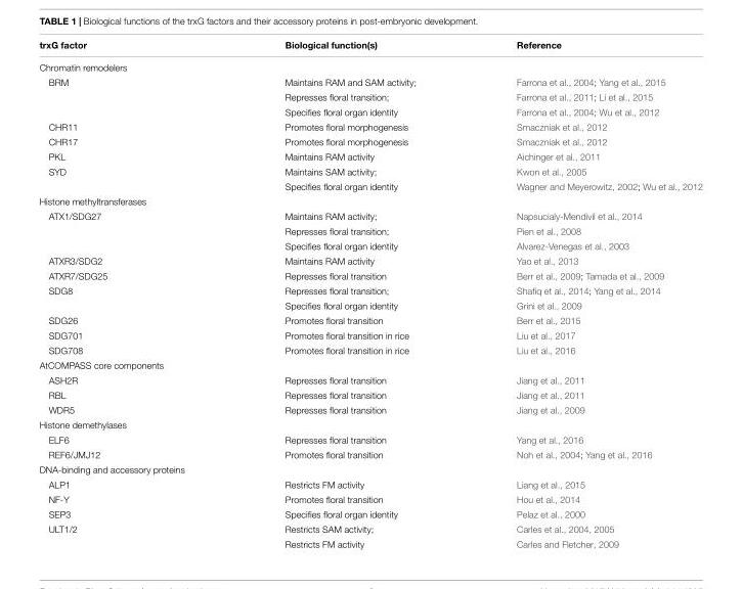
<table><thead><tr><td>trxG factor</td><td>Biological function(s)</td><td>Reference</td></tr></thead><tbody><tr><td colspan="3">Chromatin remodelers</td></tr><tr><td rowspan="3">BRM</td><td>Maintains RAM and SAM activity;</td><td>Farrona et al., 2004; Yang et al., 2015</td></tr><tr><td>Represses floral transition;</td><td>Farrona et al., 2011; Li et al., 2015</td></tr><tr><td>Specifies floral organ identity</td><td>Farrona et al., 2004; Wu et al., 2012</td></tr><tr><td>CHR11</td><td>Promotes floral morphogenesis</td><td>Smaczniak et al., 2012</td></tr><tr><td>CHR17</td><td>Promotes floral morphogenesis</td><td>Smaczniak et al., 2012</td></tr><tr><td>PKL</td><td>Maintains RAM activity</td><td>Aichinger et al., 2011</td></tr><tr><td rowspan="2">SYD</td><td>Maintains SAM activity;</td><td>Kwon et al., 2005</td></tr><tr><td>Specifies floral organ identity</td><td>Wagner and Meyerowitz, 2002; Wu et al., 2012</td></tr><tr><td colspan="3">Histone methyltransferases</td></tr><tr><td rowspan="3">ATX1/SDG27</td><td>Maintains RAM activity;</td><td>Napsucialy-Mendivil et al., 2014</td></tr><tr><td>Represses floral transition;</td><td>Pien et al., 2008</td></tr><tr><td>Specifies floral organ identity</td><td>Alvarez-Venegas et al., 2003</td></tr><tr><td>ATXR3/SDG2</td><td>Maintains RAM activity</td><td>Yao et al., 2013</td></tr><tr><td>ATXR7/SDG25</td><td>Represses floral transition</td><td>Berr et al., 2009; Tamada et al., 2009</td></tr><tr><td rowspan="2">SDG8</td><td>Represses floral transition;</td><td>Shafiq et al., 2014; Yang et al., 2014</td></tr><tr><td>Specifies floral organ identity</td><td>Grini et al., 2009</td></tr><tr><td>SDG26</td><td>Promotes floral transition</td><td>Berr et al., 2015</td></tr><tr><td>SDG701</td><td>Promotes floral transition in rice</td><td>Liu et al., 2017</td></tr><tr><td>SDG708</td><td>Promotes floral transition in rice</td><td>Liu et al., 2016</td></tr><tr><td colspan="3">AtCOMPASS core components</td></tr><tr><td>ASH2R</td><td>Represses floral transition</td><td>Jiang et al., 2011</td></tr><tr><td>RBL</td><td>Represses floral transition</td><td>Jiang et al., 2011</td></tr><tr><td>WDR5</td><td>Represses floral transition</td><td>Jiang et al., 2009</td></tr><tr><td colspan="3">Histone demethylases</td></tr><tr><td>ELF6</td><td>Represses floral transition</td><td>Yang et al., 2016</td></tr><tr><td>REF6/JMJ12</td><td>Promotes floral transition</td><td>Noh et al., 2004; Yang et al., 2016</td></tr><tr><td colspan="3">DNA-binding and accessory proteins</td></tr><tr><td>ALP1</td><td>Restricts FM activity</td><td>Liang et al., 2015</td></tr><tr><td>NF-Y</td><td>Promotes floral transition</td><td>Hou et al., 2014</td></tr><tr><td>SEP3</td><td>Specifies floral organ identity</td><td>Pelaz et al., 2000</td></tr><tr><td rowspan="2">ULT1/2</td><td>Restricts SAM activity;</td><td>Carles et al., 2004, 2005</td></tr><tr><td>Restricts FM activity</td><td>Carles and Fletcher, 2009</td></tr></tbody></table>